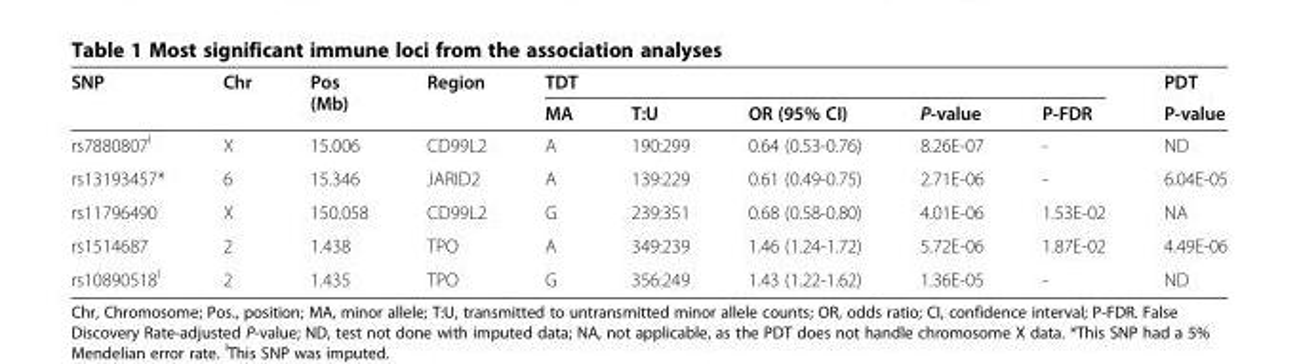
<table><thead><tr><td rowspan="2">SNP</td><td rowspan="2">Chr</td><td rowspan="2">Pos (Mb)</td><td rowspan="2">Region</td><td colspan="5">TDT</td><td rowspan="2">PDT P-value</td></tr><tr><td>MA</td><td>T:U</td><td>OR (95% CI)</td><td>P-value</td><td>P-FDR</td></tr></thead><tbody><tr><td>rs7880807<sup>I</sup></td><td>X</td><td>15.006</td><td>CD99L2</td><td>A</td><td>190:299</td><td>0.64 (0.53-0.76)</td><td>8.26E-07</td><td>-</td><td>ND</td></tr><tr><td>rs13193457*</td><td>6</td><td>15.346</td><td>JARID2</td><td>A</td><td>139:229</td><td>0.61 (0.49-0.75)</td><td>2.71E-06</td><td>-</td><td>6.04E-05</td></tr><tr><td>rs11796490</td><td>X</td><td>150.058</td><td>CD99L2</td><td>G</td><td>239:351</td><td>0.68 (0.58-0.80)</td><td>4.01E-06</td><td>1.53E-02</td><td>NA</td></tr><tr><td>rs1514687</td><td>2</td><td>1.438</td><td>TPO</td><td>A</td><td>349:239</td><td>1.46 (1.24-1.72)</td><td>5.72E-06</td><td>1.87E-02</td><td>4.49E-06</td></tr><tr><td>rs10890518<sup>I</sup></td><td>2</td><td>1.435</td><td>TPO</td><td>G</td><td>356:249</td><td>1.43 (1.22-1.62)</td><td>1.36E-05</td><td>-</td><td>ND</td></tr></tbody></table>